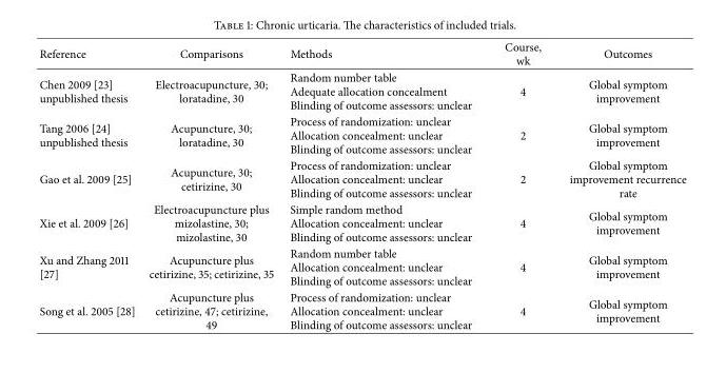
<table><thead><tr><td>Reference</td><td>Comparisons</td><td>Methods</td><td>Course, wk</td><td>Outcomes</td></tr></thead><tbody><tr><td>Chen 2009 [23] unpublished thesis</td><td>Electroacupuncture, 30; loratadine, 30</td><td>Random number table Adequate allocation concealment Blinding of outcome assessors: unclear</td><td>4</td><td>Global symptom improvement</td></tr><tr><td>Tang 2006 [24] unpublished thesis</td><td>Acupuncture, 30; loratadine, 30</td><td>Process of randomization: unclear Allocation concealment: unclear Blinding of outcome assessors: unclear</td><td>2</td><td>Global symptom improvement</td></tr><tr><td>Gao et al. 2009 [25]</td><td>Acupuncture, 30; cetirizine, 30</td><td>Process of randomization: unclear Allocation concealment: unclear Blinding of outcome assessors: unclear</td><td>2</td><td>Global symptom improvement recurrence rate</td></tr><tr><td>Xie et al. 2009 [26]</td><td>Electroacupuncture plus mizolastine, 30; mizolastine, 30</td><td>Simple random method Allocation concealment: unclear Blinding of outcome assessors: unclear</td><td>4</td><td>Global symptom improvement</td></tr><tr><td>Xu and Zhang 2011 [27]</td><td>Acupuncture plus cetirizine, 35; cetirizine, 35</td><td>Random number table Allocation concealment: unclear Blinding of outcome assessors: unclear</td><td>4</td><td>Global symptom improvement</td></tr><tr><td>Song et al. 2005 [28]</td><td>Acupuncture plus cetirizine, 47; cetirizine, 49</td><td>Process of randomization: unclear Allocation concealment: unclear Blinding of outcome assessors: unclear</td><td>4</td><td>Global symptom improvement</td></tr></tbody></table>